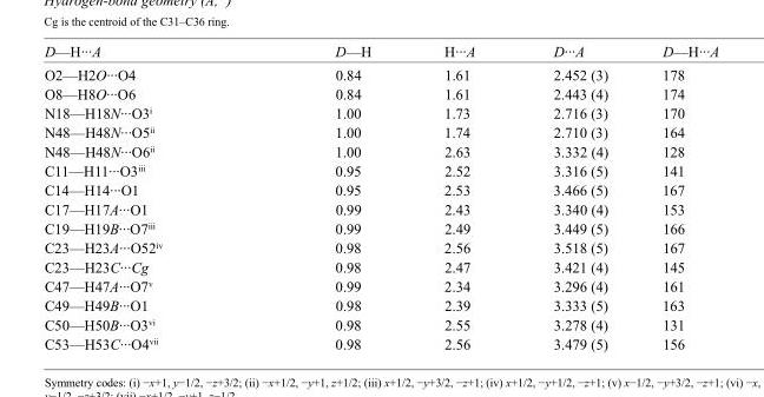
<table><tbody><tr><td>D—H···A</td><td>D—H</td><td>H···A</td><td>D···A</td><td>D—H···A</td></tr><tr><td>O2—H2O···O4</td><td>0.84</td><td>1.61</td><td>2.452 (3)</td><td>178</td></tr><tr><td>O8—H8O···O6</td><td>0.84</td><td>1.61</td><td>2.443 (4)</td><td>174</td></tr><tr><td>N18—H18N···O3<sup>i</sup></td><td>1.00</td><td>1.73</td><td>2.716 (3)</td><td>170</td></tr><tr><td>N48—H48N···O5<sup>ii</sup></td><td>1.00</td><td>1.74</td><td>2.710 (3)</td><td>164</td></tr><tr><td>N48—H48N···O6<sup>ii</sup></td><td>1.00</td><td>2.63</td><td>3.332 (4)</td><td>128</td></tr><tr><td>C11—H11···O3<sup>iii</sup></td><td>0.95</td><td>2.52</td><td>3.316 (5)</td><td>141</td></tr><tr><td>C14—H14···O1</td><td>0.95</td><td>2.53</td><td>3.466 (5)</td><td>167</td></tr><tr><td>C17—H17A···O1</td><td>0.99</td><td>2.43</td><td>3.340 (4)</td><td>153</td></tr><tr><td>C19—H19B···O7<sup>iii</sup></td><td>0.99</td><td>2.49</td><td>3.449 (5)</td><td>166</td></tr><tr><td>C23—H23A···O52<sup>iv</sup></td><td>0.98</td><td>2.56</td><td>3.518 (5)</td><td>167</td></tr><tr><td>C23—H23C···Cg</td><td>0.98</td><td>2.47</td><td>3.421 (4)</td><td>145</td></tr><tr><td>C47—H47A···O7<sup>v</sup></td><td>0.99</td><td>2.34</td><td>3.296 (4)</td><td>161</td></tr><tr><td>C49—H49B···O1</td><td>0.98</td><td>2.39</td><td>3.333 (5)</td><td>163</td></tr><tr><td>C50—H50B···O3<sup>vi</sup></td><td>0.98</td><td>2.55</td><td>3.278 (4)</td><td>131</td></tr><tr><td>C53—H53C···O4<sup>vii</sup></td><td>0.98</td><td>2.56</td><td>3.479 (5)</td><td>156</td></tr></tbody></table>